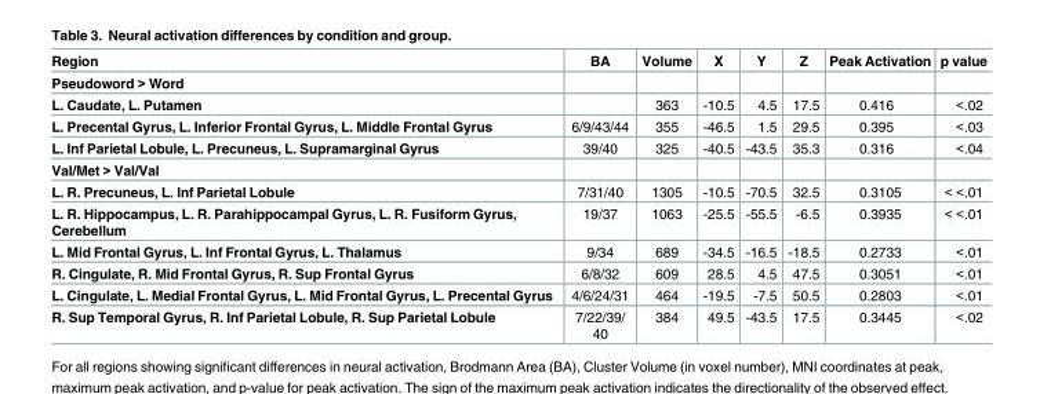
<table><thead><tr><td>Region</td><td>BA</td><td>Volume</td><td>X</td><td>Y</td><td>Z</td><td>Peak Activation</td><td>p value</td></tr></thead><tbody><tr><td colspan="8">Pseudoword &gt; Word</td></tr><tr><td>L. Caudate, L. Putamen</td><td></td><td>363</td><td>-10.5</td><td>4.5</td><td>17.5</td><td>0.416</td><td>&lt;.02</td></tr><tr><td>L. Precental Gyrus, L. Inferior Frontal Gyrus, L. Middle Frontal Gyrus</td><td>6/9/43/44</td><td>355</td><td>-46.5</td><td>1.5</td><td>29.5</td><td>0.395</td><td>&lt;.03</td></tr><tr><td>L. Inf Parietal Lobule, L. Precuneus, L. Supramarginal Gyrus</td><td>39/40</td><td>325</td><td>-40.5</td><td>-43.5</td><td>35.3</td><td>0.316</td><td>&lt;.04</td></tr><tr><td colspan="8">Val/Met &gt; Val/Val</td></tr><tr><td>L. R. Precuneus, L. Inf Parietal Lobule</td><td>7/31/40</td><td>1305</td><td>-10.5</td><td>-70.5</td><td>32.5</td><td>0.3105</td><td>&lt; &lt;.01</td></tr><tr><td>L. R. Hippocampus, L. R. Parahippocampal Gyrus, L. R. Fusiform Gyrus, Cerebellum</td><td>19/37</td><td>1063</td><td>-25.5</td><td>-55.5</td><td>-6.5</td><td>0.3935</td><td>&lt; &lt;.01</td></tr><tr><td>L. Mid Frontal Gyrus, L. Inf Frontal Gyrus, L. Thalamus</td><td>9/34</td><td>689</td><td>-34.5</td><td>-16.5</td><td>-18.5</td><td>0.2733</td><td>&lt;.01</td></tr><tr><td>R. Cingulate, R. Mid Frontal Gyrus, R. Sup Frontal Gyrus</td><td>6/8/32</td><td>609</td><td>28.5</td><td>4.5</td><td>47.5</td><td>0.3051</td><td>&lt;.01</td></tr><tr><td>L. Cingulate, L. Medial Frontal Gyrus, L. Mid Frontal Gyrus, L. Precental Gyrus</td><td>4/6/24/31</td><td>464</td><td>-19.5</td><td>-7.5</td><td>50.5</td><td>0.2803</td><td>&lt;.01</td></tr><tr><td>R. Sup Temporal Gyrus, R. Inf Parietal Lobule, R. Sup Parietal Lobule</td><td>7/22/39/ 40</td><td>384</td><td>49.5</td><td>-43.5</td><td>17.5</td><td>0.3445</td><td>&lt;.02</td></tr></tbody></table>